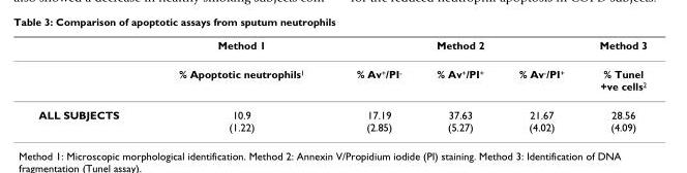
<table><thead><tr><td rowspan="2"></td><td rowspan="2">Method 1 % Apoptotic neutrophils1</td><td colspan="3">Method 2</td><td rowspan="2">Method 3 % Tunel +ve cells2</td></tr><tr><td>% Av+/PI-</td><td>% Av+/PI+</td><td>% Av-/PI+</td></tr></thead><tbody><tr><td>ALL SUBJECTS</td><td>10.9 (1.22)</td><td>17.19 (2.85)</td><td>37.63 (5.27)</td><td>21.67 (4.02)</td><td>28.56 (4.09)</td></tr></tbody></table>